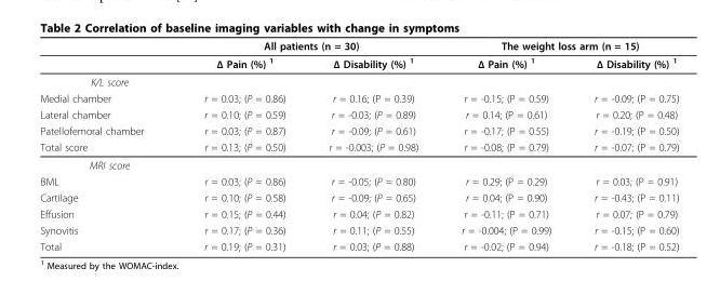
<table><thead><tr><td rowspan="2"></td><td colspan="2">All patients (n = 30)</td><td colspan="2">The weight loss arm (n = 15)</td></tr><tr><td>Δ Pain (%) <sup>1</sup></td><td>Δ Disability (%) <sup>1</sup></td><td>Δ Pain (%) <sup>1</sup></td><td>Δ Disability (%) <sup>1</sup></td></tr></thead><tbody><tr><td colspan="5">K/L score</td></tr><tr><td>Medial chamber</td><td>r = 0.03; (P = 0.86)</td><td>r = 0.16; (P = 0.39)</td><td>r = -0.15; (P = 0.59)</td><td>r = -0.09; (P = 0.75)</td></tr><tr><td>Lateral chamber</td><td>r = 0.10; (P = 0.59)</td><td>r = -0.03; (P = 0.89)</td><td>r = 0.14; (P = 0.61)</td><td>r = 0.20; (P = 0.48)</td></tr><tr><td>Patellofemoral chamber</td><td>r = 0.03; (P = 0.87)</td><td>r = -0.09; (P = 0.61)</td><td>r = -0.17; (P = 0.55)</td><td>r = -0.19; (P = 0.50)</td></tr><tr><td>Total score</td><td>r = 0.13; (P = 0.50)</td><td>r = -0.003; (P = 0.98)</td><td>r = -0.08; (P = 0.79)</td><td>r = -0.07; (P = 0.79)</td></tr><tr><td colspan="5">MRI score</td></tr><tr><td>BML</td><td>r = 0.03; (P = 0.86)</td><td>r = -0.05; (P = 0.80)</td><td>r = 0.29; (P = 0.29)</td><td>r = 0.03; (P = 0.91)</td></tr><tr><td>Cartilage</td><td>r = 0.10; (P = 0.58)</td><td>r = -0.09; (P = 0.65)</td><td>r = 0.04; (P = 0.90)</td><td>r = -0.43; (P = 0.11)</td></tr><tr><td>Effusion</td><td>r = 0.15; (P = 0.44)</td><td>r = 0.04; (P = 0.82)</td><td>r = -0.11; (P = 0.71)</td><td>r = 0.07; (P = 0.79)</td></tr><tr><td>Synovitis</td><td>r = 0.17; (P = 0.36)</td><td>r = 0.11; (P = 0.55)</td><td>r = -0.004; (P = 0.99)</td><td>r = -0.15; (P = 0.60)</td></tr><tr><td>Total</td><td>r = 0.19; (P = 0.31)</td><td>r = 0.03; (P = 0.88)</td><td>r = -0.02; (P = 0.94)</td><td>r = -0.18; (P = 0.52)</td></tr></tbody></table>